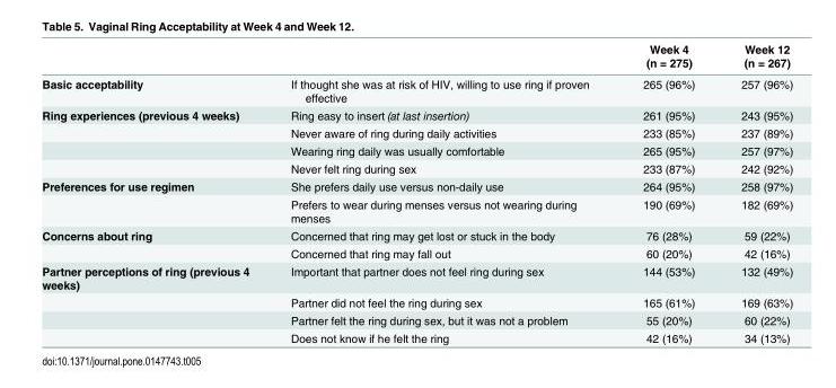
<table><thead><tr><td></td><td></td><td>Week 4 (n = 275)</td><td>Week 12 (n = 267)</td></tr></thead><tbody><tr><td>Basic acceptability</td><td>If thought she was at risk of HIV, willing to use ring if proven effective</td><td>265 (96%)</td><td>257 (96%)</td></tr><tr><td rowspan="4">Ring experiences (previous 4 weeks)</td><td>Ring easy to insert (at last insertion)</td><td>261 (95%)</td><td>243 (95%)</td></tr><tr><td>Never aware of ring during daily activities</td><td>233 (85%)</td><td>237 (89%)</td></tr><tr><td>Wearing ring daily was usually comfortable</td><td>265 (95%)</td><td>257 (97%)</td></tr><tr><td>Never felt ring during sex</td><td>233 (87%)</td><td>242 (92%)</td></tr><tr><td rowspan="2">Preferences for use regimen</td><td>She prefers daily use versus non-daily use</td><td>264 (95%)</td><td>258 (97%)</td></tr><tr><td>Prefers to wear during menses versus not wearing during menses</td><td>190 (69%)</td><td>182 (69%)</td></tr><tr><td rowspan="2">Concerns about ring</td><td>Concerned that ring may get lost or stuck in the body</td><td>76 (28%)</td><td>59 (22%)</td></tr><tr><td>Concerned that ring may fall out</td><td>60 (20%)</td><td>42 (16%)</td></tr><tr><td rowspan="4">Partner perceptions of ring (previous 4 weeks)</td><td>Important that partner does not feel ring during sex</td><td>144 (53%)</td><td>132 (49%)</td></tr><tr><td>Partner did not feel the ring during sex</td><td>165 (61%)</td><td>169 (63%)</td></tr><tr><td>Partner felt the ring during sex, but it was not a problem</td><td>55 (20%)</td><td>60 (22%)</td></tr><tr><td>Does not know if he felt the ring</td><td>42 (16%)</td><td>34 (13%)</td></tr></tbody></table>